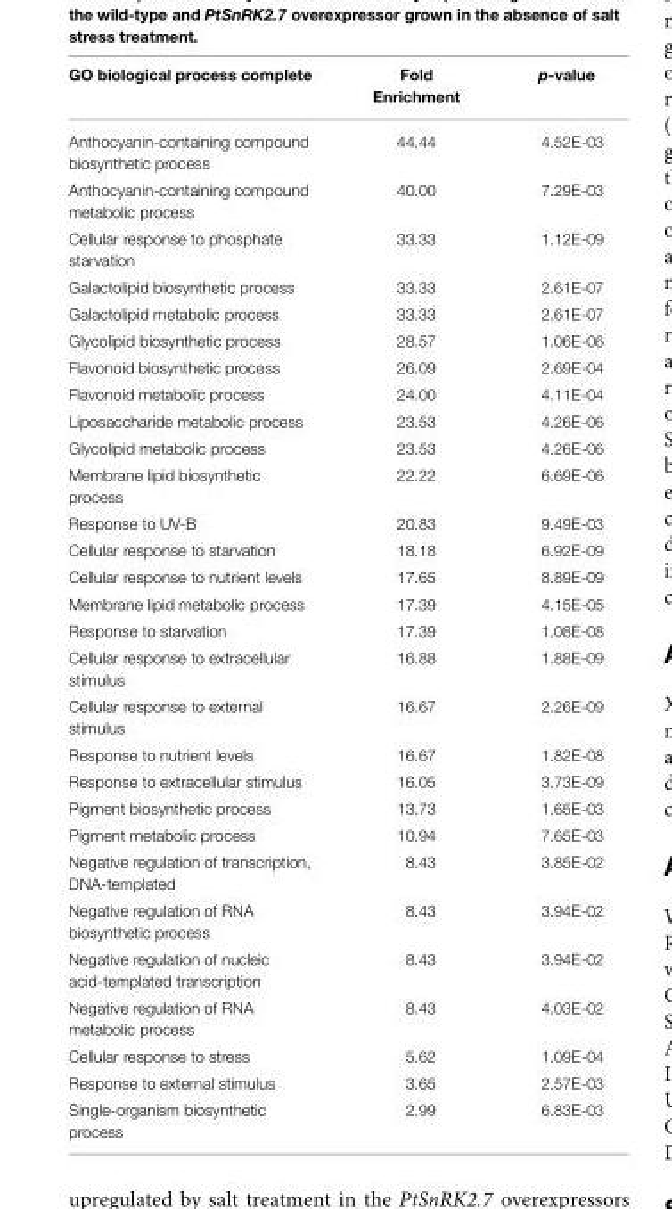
<table><thead><tr><td>GO biological process complete</td><td>Fold Enrichment</td><td>p-value</td></tr></thead><tbody><tr><td>Anthocyanin-containing compound biosynthetic process</td><td>44.44</td><td>4.52E-03</td></tr><tr><td>Anthocyanin-containing compound metabolic process</td><td>40.00</td><td>7.29E-03</td></tr><tr><td>Cellular response to phosphate starvation</td><td>33.33</td><td>1.12E-09</td></tr><tr><td>Galactolipid biosynthetic process</td><td>33.33</td><td>2.61E-07</td></tr><tr><td>Galactolipid metabolic process</td><td>33.33</td><td>2.61E-07</td></tr><tr><td>Glycolipid biosynthetic process</td><td>28.57</td><td>1.06E-06</td></tr><tr><td>Flavonoid biosynthetic process</td><td>26.09</td><td>2.69E-04</td></tr><tr><td>Flavonoid metabolic process</td><td>24.00</td><td>4.11E-04</td></tr><tr><td>Liposaccharide metabolic process</td><td>23.53</td><td>4.26E-06</td></tr><tr><td>Glycolipid metabolic process</td><td>23.53</td><td>4.26E-06</td></tr><tr><td>Membrane lipid biosynthetic process</td><td>22.22</td><td>6.69E-06</td></tr><tr><td>Response to UV-B</td><td>20.83</td><td>9.49E-03</td></tr><tr><td>Cellular response to starvation</td><td>18.18</td><td>6.92E-09</td></tr><tr><td>Cellular response to nutrient levels</td><td>17.65</td><td>8.89E-09</td></tr><tr><td>Membrane lipid metabolic process</td><td>17.39</td><td>4.15E-05</td></tr><tr><td>Response to starvation</td><td>17.39</td><td>1.08E-08</td></tr><tr><td>Cellular response to extracellular stimulus</td><td>16.88</td><td>1.88E-09</td></tr><tr><td>Cellular response to external stimulus</td><td>16.67</td><td>2.26E-09</td></tr><tr><td>Response to nutrient levels</td><td>16.67</td><td>1.82E-08</td></tr><tr><td>Response to extracellular stimulus</td><td>16.05</td><td>3.73E-09</td></tr><tr><td>Pigment biosynthetic process</td><td>13.73</td><td>1.65E-03</td></tr><tr><td>Pigment metabolic process</td><td>10.94</td><td>7.65E-03</td></tr><tr><td>Negative regulation of transcription, DNA-templated</td><td>8.43</td><td>3.85E-02</td></tr><tr><td>Negative regulation of RNA biosynthetic process</td><td>8.43</td><td>3.94E-02</td></tr><tr><td>Negative regulation of nucleic acid-templated transcription</td><td>8.43</td><td>3.94E-02</td></tr><tr><td>Negative regulation of RNA metabolic process</td><td>8.43</td><td>4.03E-02</td></tr><tr><td>Cellular response to stress</td><td>5.62</td><td>1.09E-04</td></tr><tr><td>Response to external stimulus</td><td>3.65</td><td>2.57E-03</td></tr><tr><td>Single-organism biosynthetic process</td><td>2.99</td><td>6.83E-03</td></tr></tbody></table>